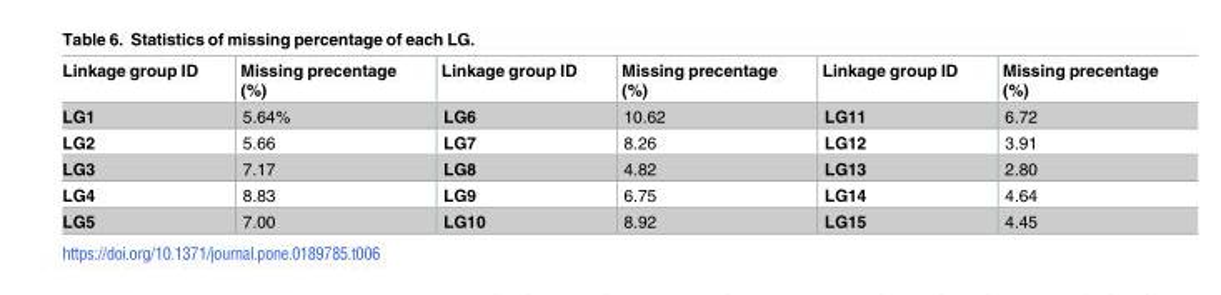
<table><thead><tr><td>Linkage group ID</td><td>Missing precentage (%)</td><td>Linkage group ID</td><td>Missing precentage (%)</td><td>Linkage group ID</td><td>Missing precentage (%)</td></tr></thead><tbody><tr><td>LG1</td><td>5.64%</td><td>LG6</td><td>10.62</td><td>LG11</td><td>6.72</td></tr><tr><td>LG2</td><td>5.66</td><td>LG7</td><td>8.26</td><td>LG12</td><td>3.91</td></tr><tr><td>LG3</td><td>7.17</td><td>LG8</td><td>4.82</td><td>LG13</td><td>2.80</td></tr><tr><td>LG4</td><td>8.83</td><td>LG9</td><td>6.75</td><td>LG14</td><td>4.64</td></tr><tr><td>LG5</td><td>7.00</td><td>LG10</td><td>8.92</td><td>LG15</td><td>4.45</td></tr></tbody></table>